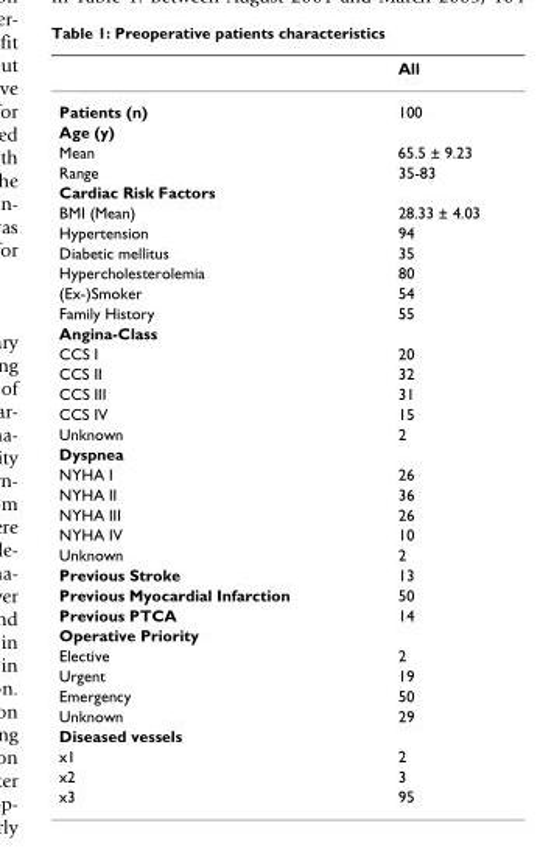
<table><thead><tr><td></td><td>All</td></tr></thead><tbody><tr><td>Patients (n)</td><td>100</td></tr><tr><td colspan="2">Age (y)</td></tr><tr><td>Mean</td><td>65.5 ± 9.23</td></tr><tr><td>Range</td><td>35-83</td></tr><tr><td colspan="2">Cardiac Risk Factors</td></tr><tr><td>BMI (Mean)</td><td>28.33 ± 4.03</td></tr><tr><td>Hypertension</td><td>94</td></tr><tr><td>Diabetic mellitus</td><td>35</td></tr><tr><td>Hypercholesterolemia</td><td>80</td></tr><tr><td>(Ex-)Smoker</td><td>54</td></tr><tr><td>Family History</td><td>55</td></tr><tr><td colspan="2">Angina-Class</td></tr><tr><td>CCS I</td><td>20</td></tr><tr><td>CCS II</td><td>32</td></tr><tr><td>CCS III</td><td>31</td></tr><tr><td>CCS IV</td><td>15</td></tr><tr><td>Unknown</td><td>2</td></tr><tr><td colspan="2">Dyspnea</td></tr><tr><td>NYHA I</td><td>26</td></tr><tr><td>NYHA II</td><td>36</td></tr><tr><td>NYHA III</td><td>26</td></tr><tr><td>NYHA IV</td><td>10</td></tr><tr><td>Unknown</td><td>2</td></tr><tr><td>Previous Stroke</td><td>13</td></tr><tr><td>Previous Myocardial Infarction</td><td>50</td></tr><tr><td>Previous PTCA</td><td>14</td></tr><tr><td colspan="2">Operative Priority</td></tr><tr><td>Elective</td><td>2</td></tr><tr><td>Urgent</td><td>19</td></tr><tr><td>Emergency</td><td>50</td></tr><tr><td>Unknown</td><td>29</td></tr><tr><td colspan="2">Diseased vessels</td></tr><tr><td>x1</td><td>2</td></tr><tr><td>x2</td><td>3</td></tr><tr><td>x3</td><td>95</td></tr></tbody></table>